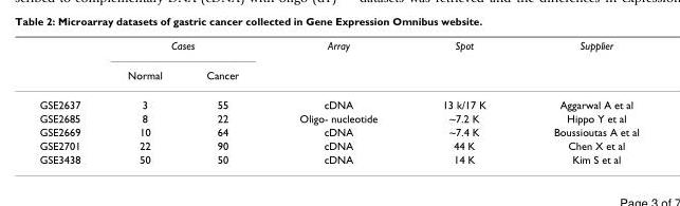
<table><thead><tr><td rowspan="2"></td><td colspan="2">Cases</td><td rowspan="2">Array</td><td rowspan="2">Spot</td><td rowspan="2">Supplier</td></tr><tr><td>Normal</td><td>Cancer</td></tr></thead><tbody><tr><td>GSE2637</td><td>3</td><td>55</td><td>cDNA</td><td>13 k/17 K</td><td>Aggarwal A et al</td></tr><tr><td>GSE2685</td><td>8</td><td>22</td><td>Oligo- nucleotide</td><td>~7.2 K</td><td>Hippo Y et al</td></tr><tr><td>GSE2669</td><td>10</td><td>64</td><td>cDNA</td><td>~7.4 K</td><td>Boussioutas A et al</td></tr><tr><td>GSE2701</td><td>22</td><td>90</td><td>cDNA</td><td>44 K</td><td>Chen X et al</td></tr><tr><td>GSE3438</td><td>50</td><td>50</td><td>cDNA</td><td>14 K</td><td>Kim S et al</td></tr></tbody></table>